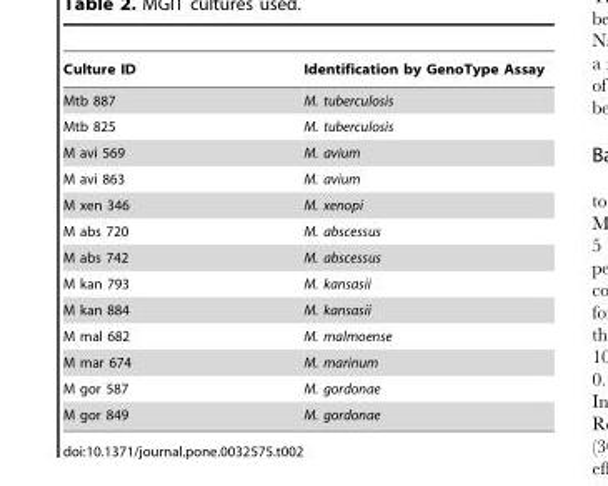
<table><thead><tr><td>Culture ID</td><td>Identification by GenoType Assay</td></tr></thead><tbody><tr><td>Mtb 887</td><td>M. tuberculosis</td></tr><tr><td>Mtb 825</td><td>M. tuberculosis</td></tr><tr><td>M avi 569</td><td>M. avium</td></tr><tr><td>M avi 863</td><td>M. avium</td></tr><tr><td>M xen 346</td><td>M. xenopi</td></tr><tr><td>M abs 720</td><td>M. abscessus</td></tr><tr><td>M abs 742</td><td>M. abscessus</td></tr><tr><td>M kan 793</td><td>M. kansasii</td></tr><tr><td>M kan 884</td><td>M. kansasii</td></tr><tr><td>M mal 682</td><td>M. malmoense</td></tr><tr><td>M mar 674</td><td>M. marinum</td></tr><tr><td>M gor 587</td><td>M. gordonae</td></tr><tr><td>M gor 849</td><td>M. gordonae</td></tr></tbody></table>